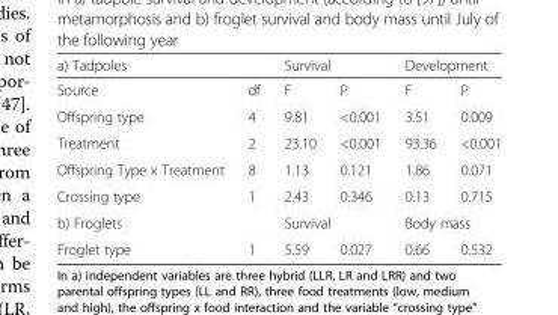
<table><thead><tr><td rowspan="2">a) Tadpoles Source</td><td rowspan="2">df</td><td colspan="2">Survival</td><td colspan="2">Development</td></tr><tr><td>F</td><td>P</td><td>F</td><td>P</td></tr></thead><tbody><tr><td>Offspring type</td><td>4</td><td>9.81</td><td>&lt;0.001</td><td>3.51</td><td>0.009</td></tr><tr><td>Treatment</td><td>2</td><td>23.10</td><td>&lt;0.001</td><td>93.36</td><td>&lt;0.001</td></tr><tr><td>Offspring Type x Treatment</td><td>8</td><td>1.13</td><td>0.121</td><td>1.86</td><td>0.071</td></tr><tr><td>Crossing type</td><td>1</td><td>2.43</td><td>0.346</td><td>0.13</td><td>0.715</td></tr><tr><td>b) Froglets</td><td></td><td colspan="2">Survival</td><td colspan="2">Body mass</td></tr><tr><td>Froglet type</td><td>1</td><td>5.59</td><td>0.027</td><td>0.66</td><td>0.532</td></tr></tbody></table>